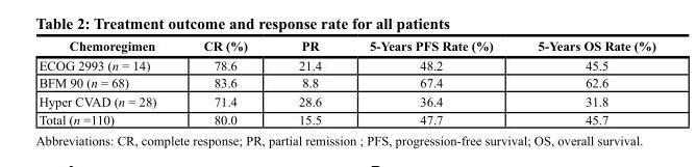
<table><thead><tr><td>Chemoregimen</td><td>CR (%)</td><td>PR</td><td>5-Years PFS Rate (%)</td><td>5-Years OS Rate (%)</td></tr></thead><tbody><tr><td>ECOG 2993 (n = 14)</td><td>78.6</td><td>21.4</td><td>48.2</td><td>45.5</td></tr><tr><td>BFM 90 (n = 68)</td><td>83.6</td><td>8.8</td><td>67.4</td><td>62.6</td></tr><tr><td>Hyper CVAD (n = 28)</td><td>71.4</td><td>28.6</td><td>36.4</td><td>31.8</td></tr><tr><td>Total (n =110)</td><td>80.0</td><td>15.5</td><td>47.7</td><td>45.7</td></tr></tbody></table>